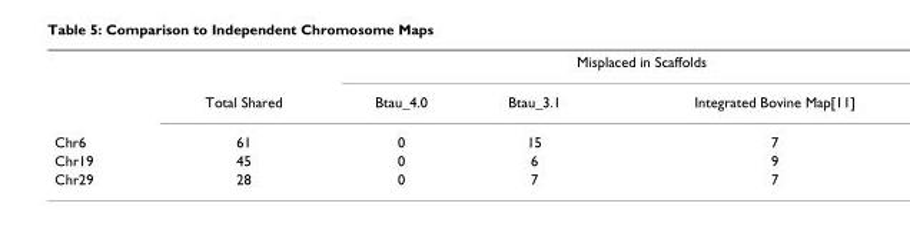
<table><thead><tr><td rowspan="2"></td><td rowspan="2">Total Shared</td><td colspan="3">Misplaced in Scaffolds</td></tr><tr><td>Btau_4.0</td><td>Btau_3.1</td><td>Integrated Bovine Map[11]</td></tr></thead><tbody><tr><td>Chr6</td><td>61</td><td>0</td><td>15</td><td>7</td></tr><tr><td>Chr19</td><td>45</td><td>0</td><td>6</td><td>9</td></tr><tr><td>Chr29</td><td>28</td><td>0</td><td>7</td><td>7</td></tr></tbody></table>